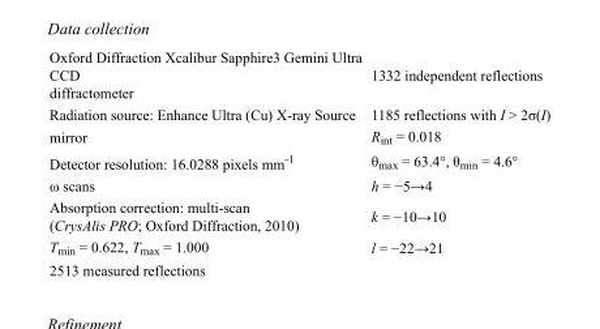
<table><tbody><tr><td>Oxford Diffraction Xcalibur Sapphire3 Gemini Ultra CCD diffractometer</td><td>1332 independent reflections</td></tr><tr><td>Radiation source: Enhance Ultra (Cu) X-ray Source</td><td>1185 reflections with I &gt; 2σ(I)</td></tr><tr><td>mirror</td><td>R<sub>int</sub> = 0.018</td></tr><tr><td>Detector resolution: 16.0288 pixels mm<sup>-1</sup></td><td>θ<sub>max</sub> = 63.4°, θ<sub>min</sub> = 4.6°</td></tr><tr><td>ω scans</td><td>h = −5→4</td></tr><tr><td>Absorption correction: multi-scan (CrysAlis PRO; Oxford Diffraction, 2010)</td><td>k = −10→10</td></tr><tr><td>T<sub>min</sub> = 0.622, T<sub>max</sub> = 1.000</td><td>l = −22→21</td></tr><tr><td>2513 measured reflections</td><td></td></tr></tbody></table>